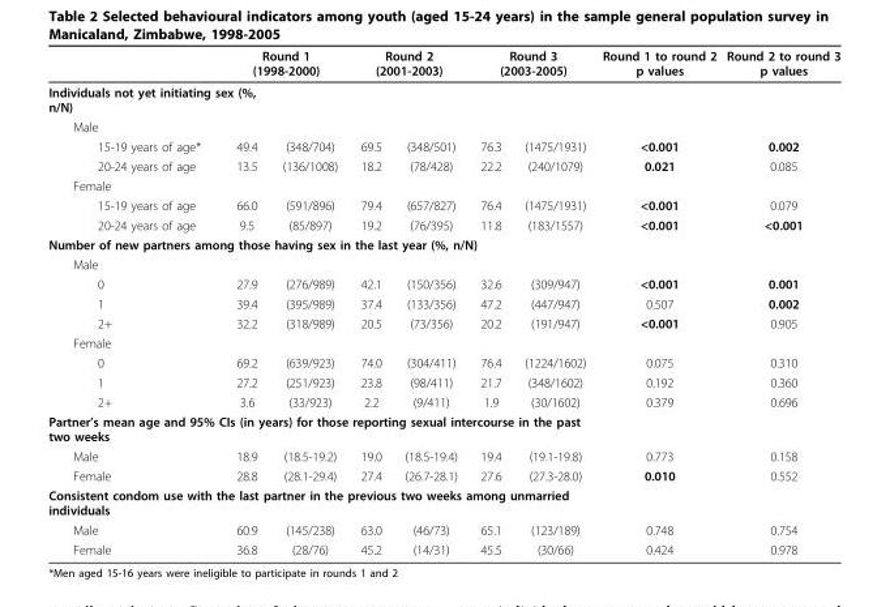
<table><thead><tr><td></td><td colspan="2">Round 1 (1998-2000)</td><td colspan="2">Round 2 (2001-2003)</td><td colspan="2">Round 3 (2003-2005)</td><td rowspan="3">Round 1 to round 2 p values</td><td rowspan="3">Round 2 to round 3 p values</td></tr><tr><td colspan="2">Individuals not yet initiating sex (%, n/N)</td><td rowspan="2"></td><td rowspan="2"></td><td rowspan="2"></td><td rowspan="2"></td><td rowspan="2"></td></tr><tr><td>Male</td><td></td></tr></thead><tbody><tr><td>15-19 years of age*</td><td>49.4</td><td>(348/704)</td><td>69.5</td><td>(348/501)</td><td>76.3</td><td>(1475/1931)</td><td>&lt;0.001</td><td>0.002</td></tr><tr><td>20-24 years of age</td><td>13.5</td><td>(136/1008)</td><td>18.2</td><td>(78/428)</td><td>22.2</td><td>(240/1079)</td><td>0.021</td><td>0.085</td></tr><tr><td colspan="9">Female</td></tr><tr><td>15-19 years of age</td><td>66.0</td><td>(591/896)</td><td>79.4</td><td>(657/827)</td><td>76.4</td><td>(1475/1931)</td><td>&lt;0.001</td><td>0.079</td></tr><tr><td>20-24 years of age</td><td>9.5</td><td>(85/897)</td><td>19.2</td><td>(76/395)</td><td>11.8</td><td>(183/1557)</td><td>&lt;0.001</td><td>&lt;0.001</td></tr><tr><td colspan="9">Number of new partners among those having sex in the last year (%, n/N)</td></tr><tr><td colspan="9">Male</td></tr><tr><td>0</td><td>27.9</td><td>(276/989)</td><td>42.1</td><td>(150/356)</td><td>32.6</td><td>(309/947)</td><td>&lt;0.001</td><td>0.001</td></tr><tr><td>1</td><td>39.4</td><td>(395/989)</td><td>37.4</td><td>(133/356)</td><td>47.2</td><td>(447/947)</td><td>0.507</td><td>0.002</td></tr><tr><td>2+</td><td>32.2</td><td>(318/989)</td><td>20.5</td><td>(73/356)</td><td>20.2</td><td>(191/947)</td><td>&lt;0.001</td><td>0.905</td></tr><tr><td colspan="9">Female</td></tr><tr><td>0</td><td>69.2</td><td>(639/923)</td><td>74.0</td><td>(304/411)</td><td>76.4</td><td>(1224/1602)</td><td>0.075</td><td>0.310</td></tr><tr><td>1</td><td>27.2</td><td>(251/923)</td><td>23.8</td><td>(98/411)</td><td>21.7</td><td>(348/1602)</td><td>0.192</td><td>0.360</td></tr><tr><td>2+</td><td>3.6</td><td>(33/923)</td><td>2.2</td><td>(9/411)</td><td>1.9</td><td>(30/1602)</td><td>0.379</td><td>0.696</td></tr><tr><td colspan="9">Partner’s mean age and 95% CIs (in years) for those reporting sexual intercourse in the past two weeks</td></tr><tr><td>Male</td><td>18.9</td><td>(18.5-19.2)</td><td>19.0</td><td>(18.5-19.4)</td><td>19.4</td><td>(19.1-19.8)</td><td>0.773</td><td>0.158</td></tr><tr><td>Female</td><td>28.8</td><td>(28.1-29.4)</td><td>27.4</td><td>(26.7-28.1)</td><td>27.6</td><td>(27.3-28.0)</td><td>0.010</td><td>0.552</td></tr><tr><td colspan="9">Consistent condom use with the last partner in the previous two weeks among unmarried individuals</td></tr><tr><td>Male</td><td>60.9</td><td>(145/238)</td><td>63.0</td><td>(46/73)</td><td>65.1</td><td>(123/189)</td><td>0.748</td><td>0.754</td></tr><tr><td>Female</td><td>36.8</td><td>(28/76)</td><td>45.2</td><td>(14/31)</td><td>45.5</td><td>(30/66)</td><td>0.424</td><td>0.978</td></tr></tbody></table>